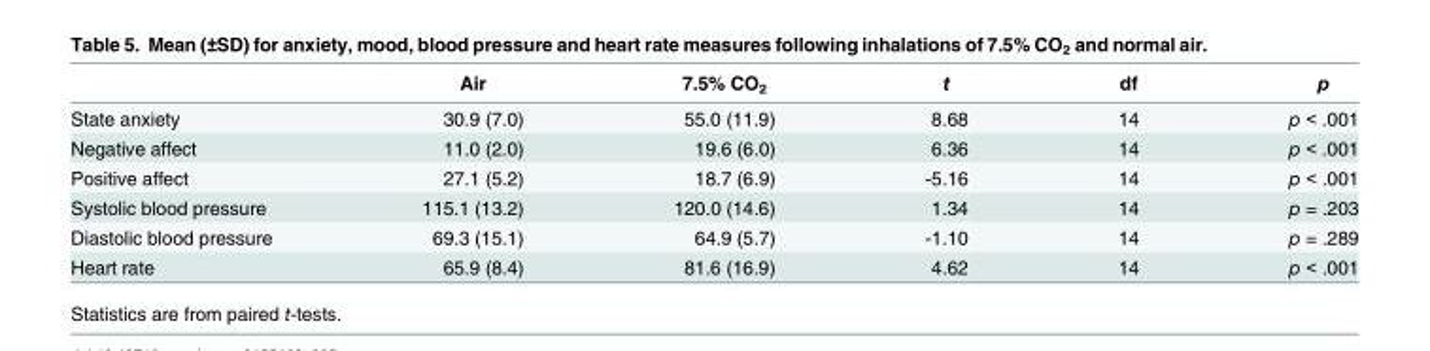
<table><thead><tr><td></td><td>Air</td><td>7.5% CO<sub>2</sub></td><td>t</td><td>df</td><td>p</td></tr></thead><tbody><tr><td>State anxiety</td><td>30.9 (7.0)</td><td>55.0 (11.9)</td><td>8.68</td><td>14</td><td>p &lt; .001</td></tr><tr><td>Negative affect</td><td>11.0 (2.0)</td><td>19.6 (6.0)</td><td>6.36</td><td>14</td><td>p &lt; .001</td></tr><tr><td>Positive affect</td><td>27.1 (5.2)</td><td>18.7 (6.9)</td><td>-5.16</td><td>14</td><td>p &lt; .001</td></tr><tr><td>Systolic blood pressure</td><td>115.1 (13.2)</td><td>120.0 (14.6)</td><td>1.34</td><td>14</td><td>p = .203</td></tr><tr><td>Diastolic blood pressure</td><td>69.3 (15.1)</td><td>64.9 (5.7)</td><td>-1.10</td><td>14</td><td>p = .289</td></tr><tr><td>Heart rate</td><td>65.9 (8.4)</td><td>81.6 (16.9)</td><td>4.62</td><td>14</td><td>p &lt; .001</td></tr></tbody></table>